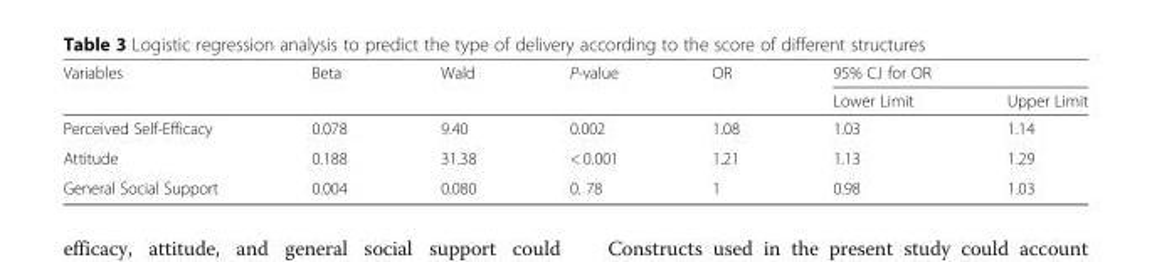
<table><thead><tr><td rowspan="2">Variables</td><td rowspan="2">Beta</td><td rowspan="2">Wald</td><td rowspan="2">P-value</td><td rowspan="2">OR</td><td colspan="2">95% C.I for OR</td></tr><tr><td>Lower Limit</td><td>Upper Limit</td></tr></thead><tbody><tr><td>Perceived Self-Efficacy</td><td>0.078</td><td>9.40</td><td>0.002</td><td>1.08</td><td>1.03</td><td>1.14</td></tr><tr><td>Attitude</td><td>0.188</td><td>31.38</td><td>&lt; 0.001</td><td>1.21</td><td>1.13</td><td>1.29</td></tr><tr><td>General Social Support</td><td>0.004</td><td>0.080</td><td>0. 78</td><td>1</td><td>0.98</td><td>1.03</td></tr></tbody></table>